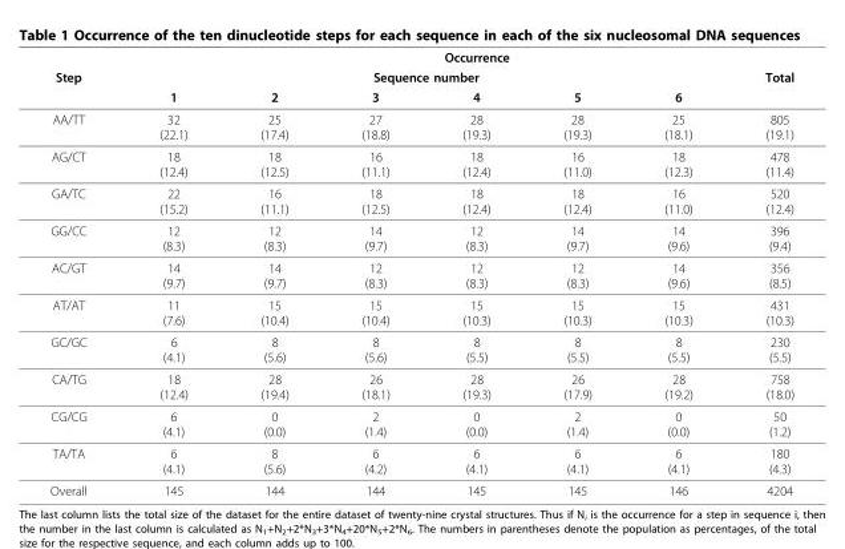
<table><thead><tr><td rowspan="3">Step</td><td colspan="7">Occurrence</td></tr><tr><td colspan="6">Sequence number</td><td rowspan="2">Total</td></tr><tr><td>1</td><td>2</td><td>3</td><td>4</td><td>5</td><td>6</td></tr></thead><tbody><tr><td>AA/TT</td><td>32 (22.1)</td><td>25 (17.4)</td><td>27 (18.8)</td><td>28 (19.3)</td><td>28 (19.3)</td><td>25 (18.1)</td><td>805 (19.1)</td></tr><tr><td>AG/CT</td><td>18 (12.4)</td><td>18 (12.5)</td><td>16 (11.1)</td><td>18 (12.4)</td><td>16 (11.0)</td><td>18 (12.3)</td><td>478 (11.4)</td></tr><tr><td>GA/TC</td><td>22 (15.2)</td><td>16 (11.1)</td><td>18 (12.5)</td><td>18 (12.4)</td><td>18 (12.4)</td><td>16 (11.0)</td><td>520 (12.4)</td></tr><tr><td>GG/CC</td><td>12 (8.3)</td><td>12 (8.3)</td><td>14 (9.7)</td><td>12 (8.3)</td><td>14 (9.7)</td><td>14 (9.6)</td><td>396 (9.4)</td></tr><tr><td>AC/GT</td><td>14 (9.7)</td><td>14 (9.7)</td><td>12 (8.3)</td><td>12 (8.3)</td><td>12 (8.3)</td><td>14 (9.6)</td><td>356 (8.5)</td></tr><tr><td>AT/AT</td><td>11 (7.6)</td><td>15 (10.4)</td><td>15 (10.4)</td><td>15 (10.3)</td><td>15 (10.3)</td><td>15 (10.3)</td><td>431 (10.3)</td></tr><tr><td>GC/GC</td><td>6 (4.1)</td><td>8 (5.6)</td><td>8 (5.6)</td><td>8 (5.5)</td><td>8 (5.5)</td><td>8 (5.5)</td><td>230 (5.5)</td></tr><tr><td>CA/TG</td><td>18 (12.4)</td><td>28 (19.4)</td><td>26 (18.1)</td><td>28 (19.3)</td><td>26 (17.9)</td><td>28 (19.2)</td><td>758 (18.0)</td></tr><tr><td>CG/CG</td><td>6 (4.1)</td><td>0 (0.0)</td><td>2 (1.4)</td><td>0 (0.0)</td><td>2 (1.4)</td><td>0 (0.0)</td><td>50 (1.2)</td></tr><tr><td>TA/TA</td><td>6 (4.1)</td><td>8 (5.6)</td><td>6 (4.2)</td><td>6 (4.1)</td><td>6 (4.1)</td><td>6 (4.1)</td><td>180 (4.3)</td></tr><tr><td>Overall</td><td>145</td><td>144</td><td>144</td><td>145</td><td>145</td><td>146</td><td>4204</td></tr></tbody></table>